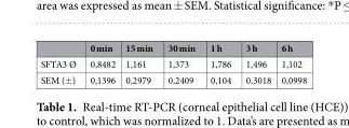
<table><thead><tr><td></td><td>0 min</td><td>15 min</td><td>30 min</td><td>1 h</td><td>3 h</td><td>6 h</td></tr></thead><tbody><tr><td>SFTA3 Ø</td><td>0,8482</td><td>1,161</td><td>1,373</td><td>1,786</td><td>1,496</td><td>1,102</td></tr><tr><td>SEM (±)</td><td>0,1396</td><td>0,2979</td><td>0,2409</td><td>0,104</td><td>0,3018</td><td>0,0998</td></tr></tbody></table>